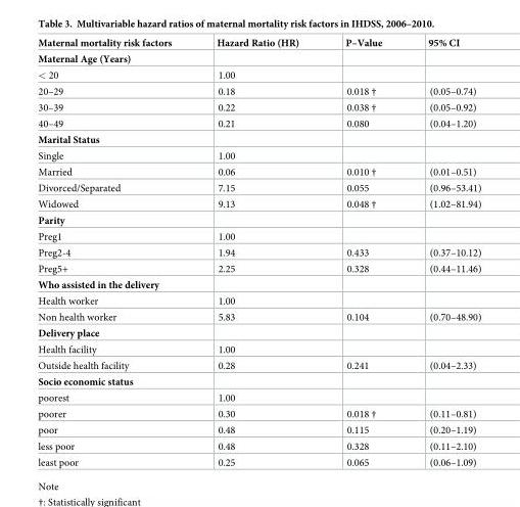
<table><thead><tr><td>Maternal mortality risk factors</td><td>Hazard Ratio (HR)</td><td>P–Value</td><td>95% CI</td></tr></thead><tbody><tr><td colspan="4">Maternal Age (Years)</td></tr><tr><td>&lt; 20</td><td>1.00</td><td></td><td></td></tr><tr><td>20–29</td><td>0.18</td><td>0.018 †</td><td>(0.05–0.74)</td></tr><tr><td>30–39</td><td>0.22</td><td>0.038 †</td><td>(0.05–0.92)</td></tr><tr><td>40–49</td><td>0.21</td><td>0.080</td><td>(0.04–1.20)</td></tr><tr><td colspan="4">Marital Status</td></tr><tr><td>Single</td><td>1.00</td><td></td><td></td></tr><tr><td>Married</td><td>0.06</td><td>0.010 †</td><td>(0.01–0.51)</td></tr><tr><td>Divorced/Separated</td><td>7.15</td><td>0.055</td><td>(0.96–53.41)</td></tr><tr><td>Widowed</td><td>9.13</td><td>0.048 †</td><td>(1.02–81.94)</td></tr><tr><td colspan="4">Parity</td></tr><tr><td>Preg1</td><td>1.00</td><td></td><td></td></tr><tr><td>Preg2-4</td><td>1.94</td><td>0.433</td><td>(0.37–10.12)</td></tr><tr><td>Preg5+</td><td>2.25</td><td>0.328</td><td>(0.44–11.46)</td></tr><tr><td colspan="4">Who assisted in the delivery</td></tr><tr><td>Health worker</td><td>1.00</td><td></td><td></td></tr><tr><td>Non health worker</td><td>5.83</td><td>0.104</td><td>(0.70–48.90)</td></tr><tr><td colspan="4">Delivery place</td></tr><tr><td>Health facility</td><td>1.00</td><td></td><td></td></tr><tr><td>Outside health facility</td><td>0.28</td><td>0.241</td><td>(0.04–2.33)</td></tr><tr><td colspan="4">Socio economic status</td></tr><tr><td>poorest</td><td>1.00</td><td></td><td></td></tr><tr><td>poorer</td><td>0.30</td><td>0.018 †</td><td>(0.11–0.81)</td></tr><tr><td>poor</td><td>0.48</td><td>0.115</td><td>(0.20–1.19)</td></tr><tr><td>less poor</td><td>0.48</td><td>0.328</td><td>(0.11–2.10)</td></tr><tr><td>least poor</td><td>0.25</td><td>0.065</td><td>(0.06–1.09)</td></tr></tbody></table>